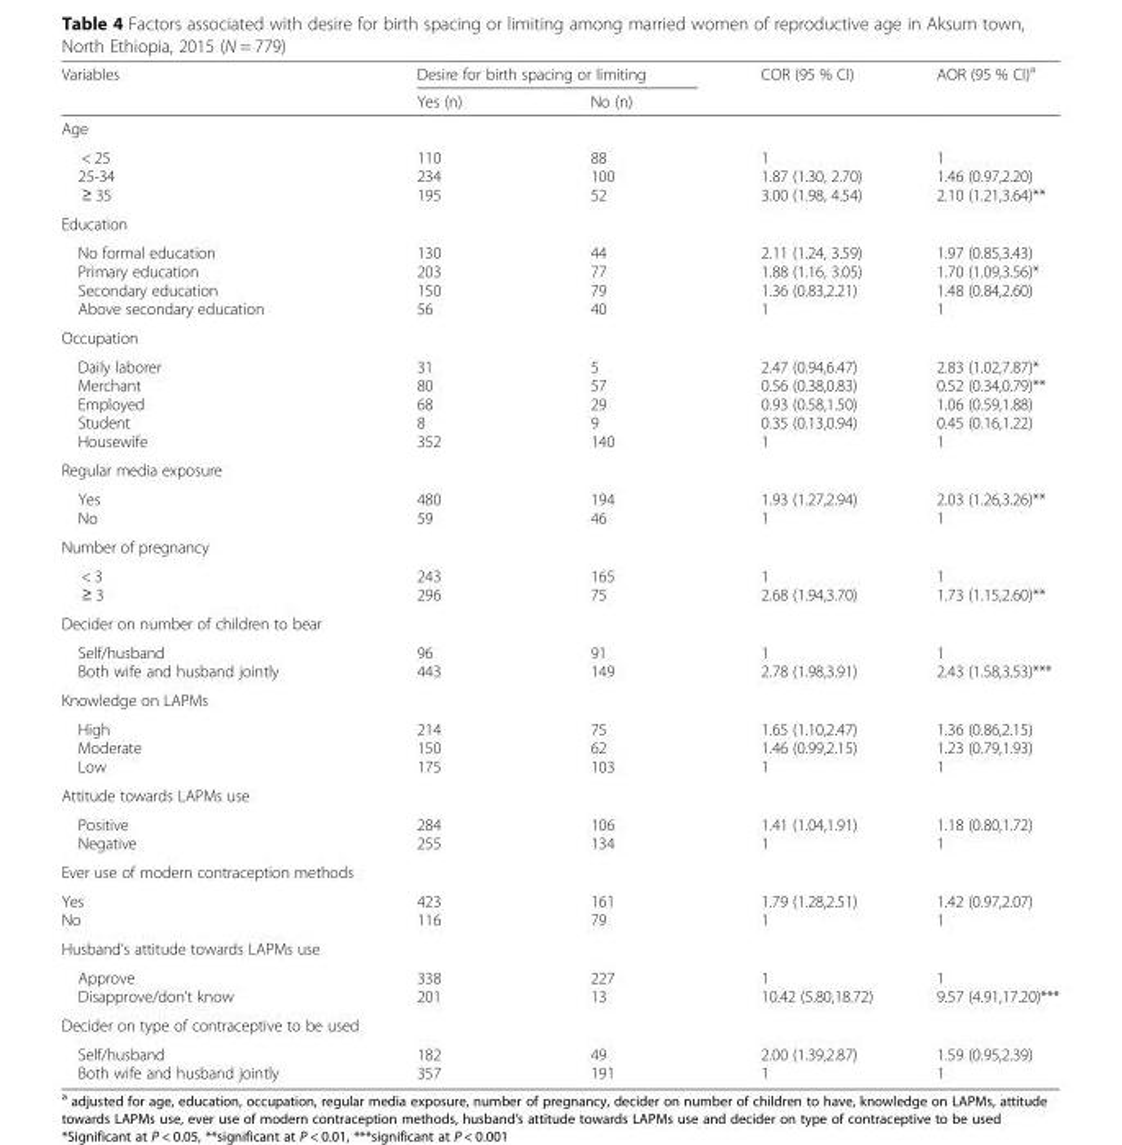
<table><thead><tr><td rowspan="2">Variables</td><td colspan="2">Desire for birth spacing or limiting</td><td rowspan="2">COR (95 % CI)</td><td rowspan="2">AOR (95 % CI)<sup>a</sup></td></tr><tr><td>Yes (n)</td><td>No (n)</td></tr></thead><tbody><tr><td colspan="5">Age</td></tr><tr><td>&lt; 25 25-34 ≥ 35</td><td>110 234 195</td><td>88 100 52</td><td>1 1.87 (1.30, 2.70) 3.00 (1.98, 4.54)</td><td>1 1.46 (0.97,2.20) 2.10 (1.21,3.64)**</td></tr><tr><td colspan="5">Education</td></tr><tr><td>No formal education Primary education Secondary education Above secondary education</td><td>130 203 150 56</td><td>44 77 79 40</td><td>2.11 (1.24, 3.59) 1.88 (1.16, 3.05) 1.36 (0.83,2.21) 1</td><td>1.97 (0.85,3.43) 1.70 (1.09,3.56)* 1.48 (0.84,2.60) 1</td></tr><tr><td colspan="5">Occupation</td></tr><tr><td>Daily laborer Merchant Employed Student Housewife</td><td>31 80 68 8 352</td><td>5 57 29 9 140</td><td>2.47 (0.94,6.47) 0.56 (0.38,0.83) 0.93 (0.58,1.50) 0.35 (0.13,0.94) 1</td><td>2.83 (1.02,7.87)* 0.52 (0.34,0.79)** 1.06 (0.59,1.88) 0.45 (0.16,1.22) 1</td></tr><tr><td colspan="5">Regular media exposure</td></tr><tr><td>Yes No</td><td>480 59</td><td>194 46</td><td>1.93 (1.27,2.94) 1</td><td>2.03 (1.26,3.26)** 1</td></tr><tr><td colspan="5">Number of pregnancy</td></tr><tr><td>&lt; 3 ≥ 3</td><td>243 296</td><td>165 75</td><td>1 2.68 (1.94,3.70)</td><td>1 1.73 (1.15,2.60)**</td></tr><tr><td colspan="5">Decider on number of children to bear</td></tr><tr><td>Self/husband Both wife and husband jointly</td><td>96 443</td><td>91 149</td><td>1 2.78 (1.98,3.91)</td><td>1 2.43 (1.58,3.53)***</td></tr><tr><td colspan="5">Knowledge on LAPMs</td></tr><tr><td>High Moderate Low</td><td>214 150 175</td><td>75 62 103</td><td>1.65 (1.10,2.47) 1.46 (0.99,2.15) 1</td><td>1.36 (0.86,2.15) 1.23 (0.79,1.93) 1</td></tr><tr><td colspan="5">Attitude towards LAPMs use</td></tr><tr><td>Positive Negative</td><td>284 255</td><td>106 134</td><td>1.41 (1.04,1.91) 1</td><td>1.18 (0.80,1.72) 1</td></tr><tr><td colspan="5">Ever use of modern contraception methods</td></tr><tr><td>Yes No</td><td>423 116</td><td>161 79</td><td>1.79 (1.28,2.51) 1</td><td>1.42 (0.97,2.07) 1</td></tr><tr><td colspan="5">Husband’s attitude towards LAPMs use</td></tr><tr><td>Approve Disapprove/don’t know</td><td>338 201</td><td>227 13</td><td>1 10.42 (5.80,18.72)</td><td>1 9.57 (4.91,17.20)***</td></tr><tr><td colspan="5">Decider on type of contraceptive to be used</td></tr><tr><td>Self/husband Both wife and husband jointly</td><td>182 357</td><td>49 191</td><td>2.00 (1.39,2.87) 1</td><td>1.59 (0.95,2.39) 1</td></tr></tbody></table>